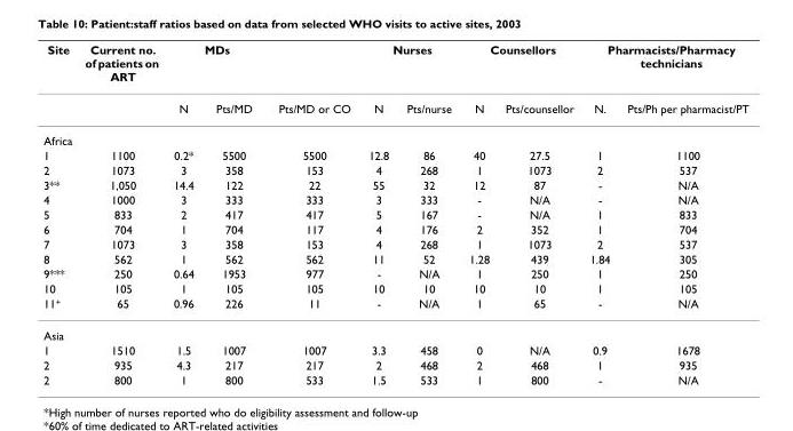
<table><thead><tr><td rowspan="2">Site</td><td rowspan="2">Current no. of patients on ART</td><td colspan="2">MDs</td><td rowspan="2">Pts/MD or CO</td><td colspan="2">Nurses</td><td colspan="2">Counsellors</td><td colspan="2">Pharmacists/Pharmacy technicians</td></tr><tr><td>N</td><td>Pts/MD</td><td>N</td><td>Pts/nurse</td><td>N</td><td>Pts/counsellor</td><td>N.</td><td>Pts/Ph per pharmacist/PT</td></tr></thead><tbody><tr><td colspan="11">Africa</td></tr><tr><td>1</td><td>1100</td><td>0.2*</td><td>5500</td><td>5500</td><td>12.8</td><td>86</td><td>40</td><td>27.5</td><td>1</td><td>1100</td></tr><tr><td>2</td><td>1073</td><td>3</td><td>358</td><td>153</td><td>4</td><td>268</td><td>1</td><td>1073</td><td>2</td><td>537</td></tr><tr><td>3**</td><td>1,050</td><td>14.4</td><td>122</td><td>22</td><td>55</td><td>32</td><td>12</td><td>87</td><td>-</td><td>N/A</td></tr><tr><td>4</td><td>1000</td><td>3</td><td>333</td><td>333</td><td>3</td><td>333</td><td>-</td><td>N/A</td><td>-</td><td>N/A</td></tr><tr><td>5</td><td>833</td><td>2</td><td>417</td><td>417</td><td>5</td><td>167</td><td>-</td><td>N/A</td><td>1</td><td>833</td></tr><tr><td>6</td><td>704</td><td>1</td><td>704</td><td>117</td><td>4</td><td>176</td><td>2</td><td>352</td><td>1</td><td>704</td></tr><tr><td>7</td><td>1073</td><td>3</td><td>358</td><td>153</td><td>4</td><td>268</td><td>1</td><td>1073</td><td>2</td><td>537</td></tr><tr><td>8</td><td>562</td><td>1</td><td>562</td><td>562</td><td>11</td><td>52</td><td>1.28</td><td>439</td><td>1.84</td><td>305</td></tr><tr><td>9***</td><td>250</td><td>0.64</td><td>1953</td><td>977</td><td>-</td><td>N/A</td><td>1</td><td>250</td><td>1</td><td>250</td></tr><tr><td>10</td><td>105</td><td>1</td><td>105</td><td>105</td><td>10</td><td>10</td><td>10</td><td>10</td><td>1</td><td>105</td></tr><tr><td>11<sup>+</sup></td><td>65</td><td>0.96</td><td>226</td><td>11</td><td>-</td><td>N/A</td><td>1</td><td>65</td><td>-</td><td>N/A</td></tr><tr><td colspan="11">Asia</td></tr><tr><td>1</td><td>1510</td><td>1.5</td><td>1007</td><td>1007</td><td>3.3</td><td>458</td><td>0</td><td>N/A</td><td>0.9</td><td>1678</td></tr><tr><td>2</td><td>935</td><td>4.3</td><td>217</td><td>217</td><td>2</td><td>468</td><td>2</td><td>468</td><td>1</td><td>935</td></tr><tr><td>2</td><td>800</td><td>1</td><td>800</td><td>533</td><td>1.5</td><td>533</td><td>1</td><td>800</td><td>-</td><td>N/A</td></tr></tbody></table>